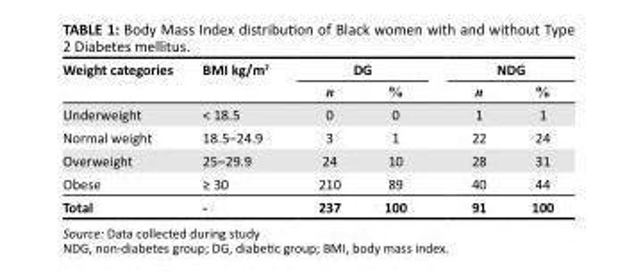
<table><thead><tr><td rowspan="2">Weight categories</td><td rowspan="2">BMI kg/m<sup>2</sup></td><td colspan="2">DG</td><td colspan="2">NDG</td></tr><tr><td>n</td><td>%</td><td>n</td><td>%</td></tr></thead><tbody><tr><td>Underweight</td><td>&lt; 18.5</td><td>0</td><td>0</td><td>1</td><td>1</td></tr><tr><td>Normal weight</td><td>18.5–24.9</td><td>3</td><td>1</td><td>22</td><td>24</td></tr><tr><td>Overweight</td><td>25–29.9</td><td>24</td><td>10</td><td>28</td><td>31</td></tr><tr><td>Obese</td><td>≥ 30</td><td>210</td><td>89</td><td>40</td><td>44</td></tr><tr><td>Total</td><td>-</td><td>237</td><td>100</td><td>91</td><td>100</td></tr></tbody></table>